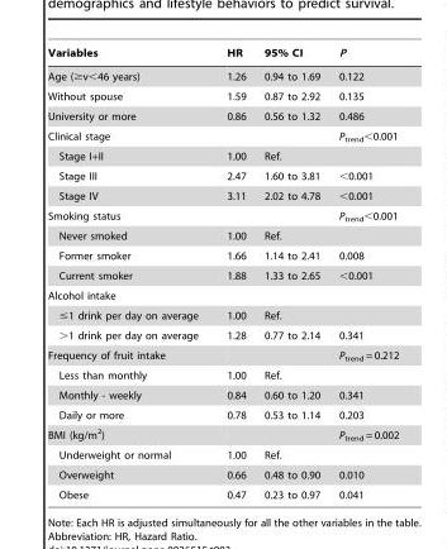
<table><thead><tr><td>Variables</td><td>HR</td><td>95% CI</td><td>P</td></tr></thead><tbody><tr><td>Age (≥v&lt;46 years)</td><td>1.26</td><td>0.94 to 1.69</td><td>0.122</td></tr><tr><td>Without spouse</td><td>1.59</td><td>0.87 to 2.92</td><td>0.135</td></tr><tr><td>University or more</td><td>0.86</td><td>0.56 to 1.32</td><td>0.486</td></tr><tr><td>Clinical stage</td><td></td><td></td><td>P<sub>trend</sub>&lt;0.001</td></tr><tr><td>Stage I+II</td><td>1.00</td><td>Ref.</td><td></td></tr><tr><td>Stage III</td><td>2.47</td><td>1.60 to 3.81</td><td>&lt;0.001</td></tr><tr><td>Stage IV</td><td>3.11</td><td>2.02 to 4.78</td><td>&lt;0.001</td></tr><tr><td>Smoking status</td><td></td><td></td><td>P<sub>trend</sub>&lt;0.001</td></tr><tr><td>Never smoked</td><td>1.00</td><td>Ref.</td><td></td></tr><tr><td>Former smoker</td><td>1.66</td><td>1.14 to 2.41</td><td>0.008</td></tr><tr><td>Current smoker</td><td>1.88</td><td>1.33 to 2.65</td><td>&lt;0.001</td></tr><tr><td colspan="4">Alcohol intake</td></tr><tr><td>≤1 drink per day on average</td><td>1.00</td><td>Ref.</td><td></td></tr><tr><td>&gt;1 drink per day on average</td><td>1.28</td><td>0.77 to 2.14</td><td>0.341</td></tr><tr><td>Frequency of fruit intake</td><td></td><td></td><td>P<sub>trend</sub> = 0.212</td></tr><tr><td>Less than monthly</td><td>1.00</td><td>Ref.</td><td></td></tr><tr><td>Monthly - weekly</td><td>0.84</td><td>0.60 to 1.20</td><td>0.341</td></tr><tr><td>Daily or more</td><td>0.78</td><td>0.53 to 1.14</td><td>0.203</td></tr><tr><td>BMI (kg/m<sup>2</sup>)</td><td></td><td></td><td>P<sub>trend</sub> = 0.002</td></tr><tr><td>Underweight or normal</td><td>1.00</td><td>Ref.</td><td></td></tr><tr><td>Overweight</td><td>0.66</td><td>0.48 to 0.90</td><td>0.010</td></tr><tr><td>Obese</td><td>0.47</td><td>0.23 to 0.97</td><td>0.041</td></tr></tbody></table>